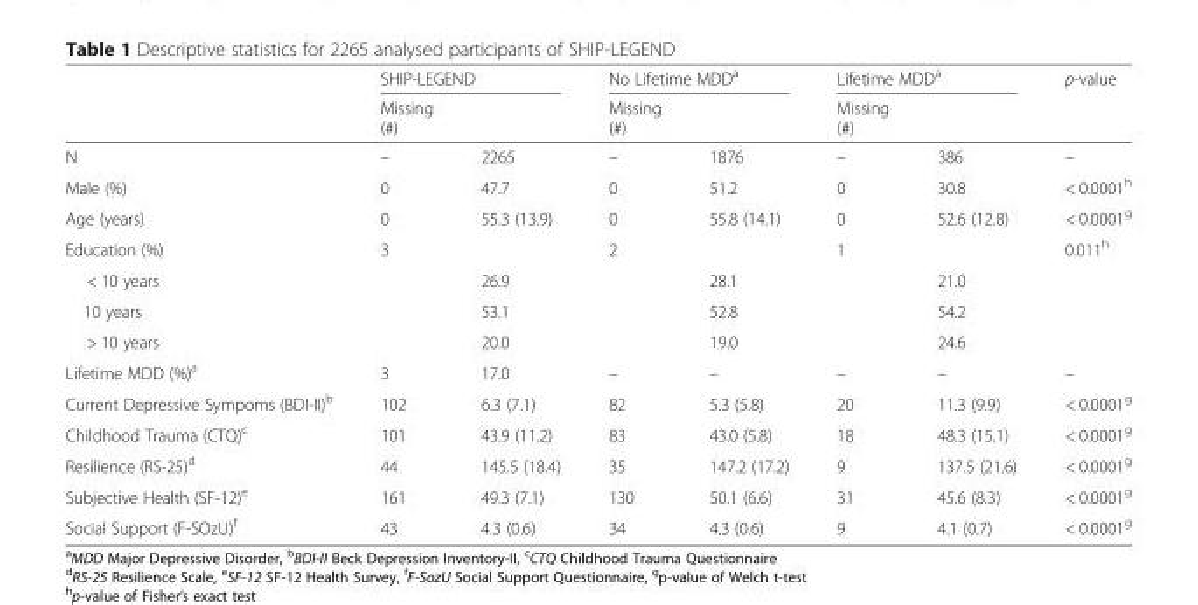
<table><thead><tr><td rowspan="2"></td><td colspan="2">SHIP-LEGEND</td><td colspan="2">No Lifetime MDD<sup>a</sup></td><td colspan="2">Lifetime MDD<sup>a</sup></td><td rowspan="2">p-value</td></tr><tr><td>Missing (#)</td><td></td><td>Missing (#)</td><td></td><td>Missing (#)</td><td></td></tr></thead><tbody><tr><td>N</td><td>–</td><td>2265</td><td>–</td><td>1876</td><td>–</td><td>386</td><td>–</td></tr><tr><td>Male (%)</td><td>0</td><td>47.7</td><td>0</td><td>51.2</td><td>0</td><td>30.8</td><td>&lt; 0.0001<sup>h</sup></td></tr><tr><td>Age (years)</td><td>0</td><td>55.3 (13.9)</td><td>0</td><td>55.8 (14.1)</td><td>0</td><td>52.6 (12.8)</td><td>&lt; 0.0001<sup>g</sup></td></tr><tr><td>Education (%)</td><td>3</td><td></td><td>2</td><td></td><td>1</td><td></td><td>0.011<sup>h</sup></td></tr><tr><td>&lt; 10 years</td><td></td><td>26.9</td><td></td><td>28.1</td><td></td><td>21.0</td><td></td></tr><tr><td>10 years</td><td></td><td>53.1</td><td></td><td>52.8</td><td></td><td>54.2</td><td></td></tr><tr><td>&gt; 10 years</td><td></td><td>20.0</td><td></td><td>19.0</td><td></td><td>24.6</td><td></td></tr><tr><td>Lifetime MDD (%)<sup>a</sup></td><td>3</td><td>17.0</td><td>–</td><td>–</td><td>–</td><td>–</td><td>–</td></tr><tr><td>Current Depressive Sympoms (BDI-II)<sup>b</sup></td><td>102</td><td>6.3 (7.1)</td><td>82</td><td>5.3 (5.8)</td><td>20</td><td>11.3 (9.9)</td><td>&lt; 0.0001<sup>g</sup></td></tr><tr><td>Childhood Trauma (CTQ)<sup>c</sup></td><td>101</td><td>43.9 (11.2)</td><td>83</td><td>43.0 (5.8)</td><td>18</td><td>48.3 (15.1)</td><td>&lt; 0.0001<sup>g</sup></td></tr><tr><td>Resilience (RS-25)<sup>d</sup></td><td>44</td><td>145.5 (18.4)</td><td>35</td><td>147.2 (17.2)</td><td>9</td><td>137.5 (21.6)</td><td>&lt; 0.0001<sup>g</sup></td></tr><tr><td>Subjective Health (SF-12)<sup>e</sup></td><td>161</td><td>49.3 (7.1)</td><td>130</td><td>50.1 (6.6)</td><td>31</td><td>45.6 (8.3)</td><td>&lt; 0.0001<sup>g</sup></td></tr><tr><td>Social Support (F-SOzU)<sup>f</sup></td><td>43</td><td>4.3 (0.6)</td><td>34</td><td>4.3 (0.6)</td><td>9</td><td>4.1 (0.7)</td><td>&lt; 0.0001<sup>g</sup></td></tr></tbody></table>